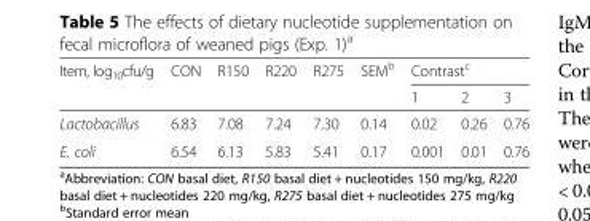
<table><thead><tr><td rowspan="2">Item, log<sub>10</sub>cfu/g</td><td rowspan="2">CON</td><td rowspan="2">R150</td><td rowspan="2">R220</td><td rowspan="2">R275</td><td rowspan="2">SEM<sup>b</sup></td><td colspan="3">Contrast<sup>c</sup></td></tr><tr><td>1</td><td>2</td><td>3</td></tr></thead><tbody><tr><td>Lactobacillus</td><td>6.83</td><td>7.08</td><td>7.24</td><td>7.30</td><td>0.14</td><td>0.02</td><td>0.26</td><td>0.76</td></tr><tr><td>E. coli</td><td>6.54</td><td>6.13</td><td>5.83</td><td>5.41</td><td>0.17</td><td>0.001</td><td>0.01</td><td>0.76</td></tr></tbody></table>